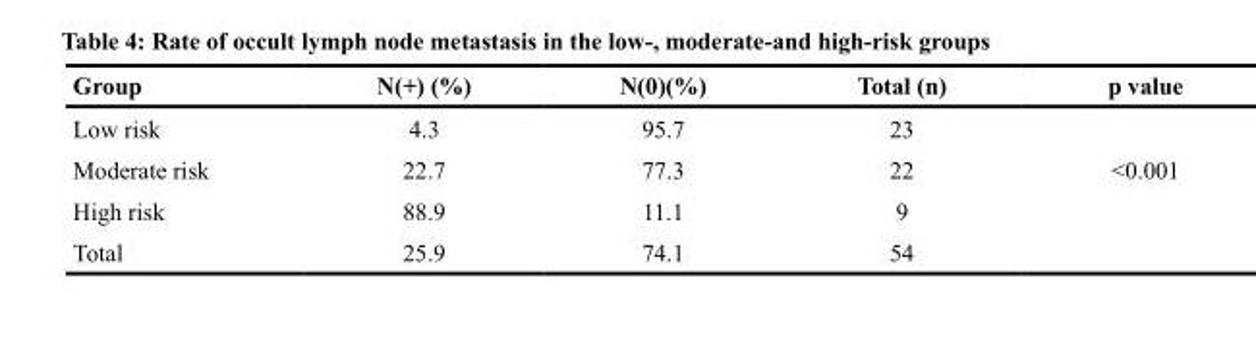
<table><thead><tr><td>Group</td><td>N(+) (%)</td><td>N(0)(%)</td><td>Total (n)</td><td>p value</td></tr></thead><tbody><tr><td>Low risk</td><td>4.3</td><td>95.7</td><td>23</td><td></td></tr><tr><td>Moderate risk</td><td>22.7</td><td>77.3</td><td>22</td><td>&lt;0.001</td></tr><tr><td>High risk</td><td>88.9</td><td>11.1</td><td>9</td><td></td></tr><tr><td>Total</td><td>25.9</td><td>74.1</td><td>54</td><td></td></tr></tbody></table>